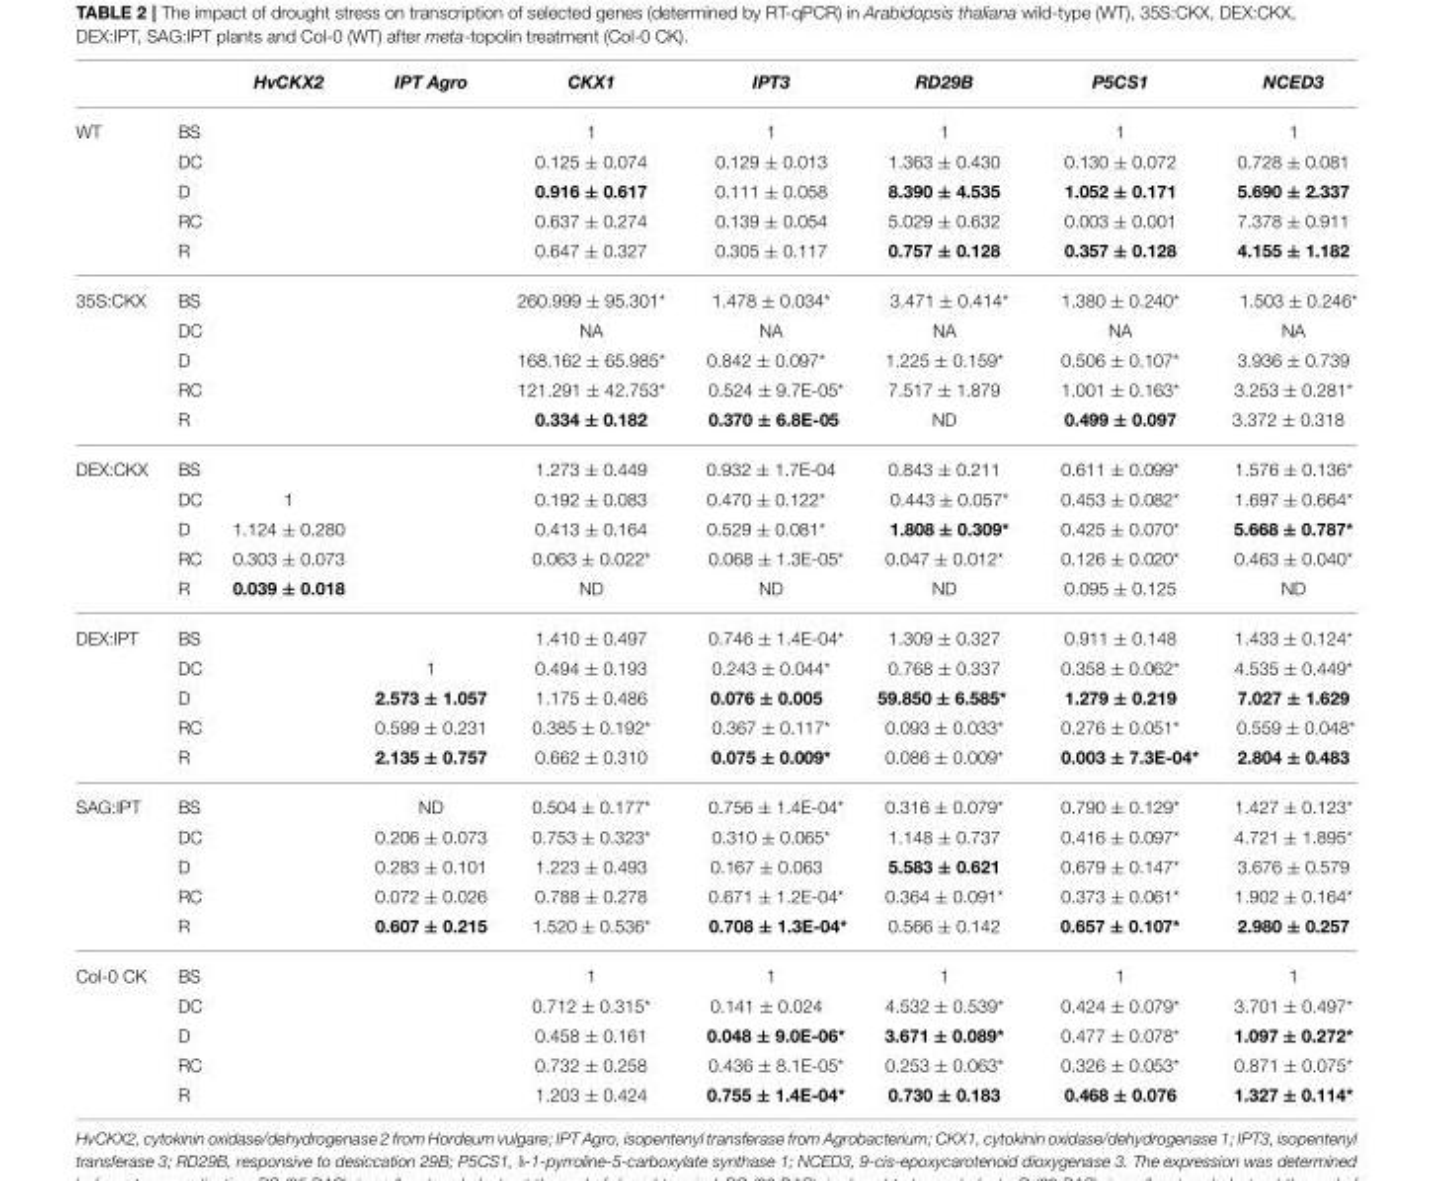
<table><thead><tr><td></td><td></td><td>HvCKX2</td><td>IPT Agro</td><td>CKX1</td><td>IPT3</td><td>RD29B</td><td>P5CS1</td><td>NCED3</td></tr></thead><tbody><tr><td rowspan="5">WT</td><td>BS</td><td></td><td></td><td>1</td><td>1</td><td>1</td><td>1</td><td>1</td></tr><tr><td>DC</td><td></td><td></td><td>0.125 ± 0.074</td><td>0.129 ± 0.013</td><td>1.363 ± 0.430</td><td>0.130 ± 0.072</td><td>0.728 ± 0.081</td></tr><tr><td>D</td><td></td><td></td><td>0.916 ± 0.617</td><td>0.111 ± 0.058</td><td>8.390 ± 4.535</td><td>1.052 ± 0.171</td><td>5.690 ± 2.337</td></tr><tr><td>RC</td><td></td><td></td><td>0.637 ± 0.274</td><td>0.139 ± 0.054</td><td>5.029 ± 0.632</td><td>0.003 ± 0.001</td><td>7.378 ± 0.911</td></tr><tr><td>R</td><td></td><td></td><td>0.647 ± 0.327</td><td>0.305 ± 0.117</td><td>0.757 ± 0.128</td><td>0.357 ± 0.128</td><td>4.155 ± 1.182</td></tr><tr><td rowspan="5">35S:CKX</td><td>BS</td><td></td><td></td><td>260.999 ± 95.301*</td><td>1.478 ± 0.034*</td><td>3.471 ± 0.414*</td><td>1.380 ± 0.240*</td><td>1.503 ± 0.246*</td></tr><tr><td>DC</td><td></td><td></td><td>NA</td><td>NA</td><td>NA</td><td>NA</td><td>NA</td></tr><tr><td>D</td><td></td><td></td><td>168.162 ± 65.985*</td><td>0.842 ± 0.097*</td><td>1.225 ± 0.159*</td><td>0.506 ± 0.107*</td><td>3.936 ± 0.739</td></tr><tr><td>RC</td><td></td><td></td><td>121.291 ± 42.753*</td><td>0.524 ± 9.7E-05*</td><td>7.517 ± 1.879</td><td>1.001 ± 0.163*</td><td>3.253 ± 0.281*</td></tr><tr><td>R</td><td></td><td></td><td>0.334 ± 0.182</td><td>0.370 ± 6.8E-05</td><td>ND</td><td>0.499 ± 0.097</td><td>3.372 ± 0.318</td></tr><tr><td rowspan="5">DEX:CKX</td><td>BS</td><td></td><td></td><td>1.273 ± 0.449</td><td>0.932 ± 1.7E-04</td><td>0.843 ± 0.211</td><td>0.611 ± 0.099*</td><td>1.576 ± 0.136*</td></tr><tr><td>DC</td><td>1</td><td></td><td>0.192 ± 0.083</td><td>0.470 ± 0.122*</td><td>0.443 ± 0.057*</td><td>0.453 ± 0.082*</td><td>1.697 ± 0.664*</td></tr><tr><td>D</td><td>1.124 ± 0.280</td><td></td><td>0.413 ± 0.164</td><td>0.529 ± 0.081*</td><td>1.808 ± 0.309*</td><td>0.425 ± 0.070*</td><td>5.668 ± 0.787*</td></tr><tr><td>RC</td><td>0.303 ± 0.073</td><td></td><td>0.063 ± 0.022*</td><td>0.068 ± 1.3E-05*</td><td>0.047 ± 0.012*</td><td>0.126 ± 0.020*</td><td>0.463 ± 0.040*</td></tr><tr><td>R</td><td>0.039 ± 0.018</td><td></td><td>ND</td><td>ND</td><td>ND</td><td>0.095 ± 0.125</td><td>ND</td></tr><tr><td rowspan="5">DEX:IPT</td><td>BS</td><td></td><td></td><td>1.410 ± 0.497</td><td>0.746 ± 1.4E-04*</td><td>1.309 ± 0.327</td><td>0.911 ± 0.148</td><td>1.433 ± 0.124*</td></tr><tr><td>DC</td><td></td><td>1</td><td>0.494 ± 0.193</td><td>0.243 ± 0.044*</td><td>0.768 ± 0.337</td><td>0.358 ± 0.062*</td><td>4.535 ± 0.449*</td></tr><tr><td>D</td><td></td><td>2.573 ± 1.057</td><td>1.175 ± 0.486</td><td>0.076 ± 0.005</td><td>59.850 ± 6.585*</td><td>1.279 ± 0.219</td><td>7.027 ± 1.629</td></tr><tr><td>RC</td><td></td><td>0.599 ± 0.231</td><td>0.385 ± 0.192*</td><td>0.367 ± 0.117*</td><td>0.093 ± 0.033*</td><td>0.276 ± 0.051*</td><td>0.559 ± 0.048*</td></tr><tr><td>R</td><td></td><td>2.135 ± 0.757</td><td>0.662 ± 0.310</td><td>0.075 ± 0.009*</td><td>0.086 ± 0.009*</td><td>0.003 ± 7.3E-04*</td><td>2.804 ± 0.483</td></tr><tr><td rowspan="5">SAG:IPT</td><td>BS</td><td></td><td>ND</td><td>0.504 ± 0.177*</td><td>0.756 ± 1.4E-04*</td><td>0.316 ± 0.079*</td><td>0.790 ± 0.129*</td><td>1.427 ± 0.123*</td></tr><tr><td>DC</td><td></td><td>0.206 ± 0.073</td><td>0.753 ± 0.323*</td><td>0.310 ± 0.065*</td><td>1.148 ± 0.737</td><td>0.416 ± 0.097*</td><td>4.721 ± 1.895*</td></tr><tr><td>D</td><td></td><td>0.283 ± 0.101</td><td>1.223 ± 0.493</td><td>0.167 ± 0.063</td><td>5.583 ± 0.621</td><td>0.679 ± 0.147*</td><td>3.676 ± 0.579</td></tr><tr><td>RC</td><td></td><td>0.072 ± 0.026</td><td>0.788 ± 0.278</td><td>0.671 ± 1.2E-04*</td><td>0.364 ± 0.091*</td><td>0.373 ± 0.061*</td><td>1.902 ± 0.164*</td></tr><tr><td>R</td><td></td><td>0.607 ± 0.215</td><td>1.520 ± 0.536*</td><td>0.708 ± 1.3E-04*</td><td>0.566 ± 0.142</td><td>0.657 ± 0.107*</td><td>2.980 ± 0.257</td></tr><tr><td rowspan="5">Col-0 CK</td><td>BS</td><td></td><td></td><td>1</td><td>1</td><td>1</td><td>1</td><td>1</td></tr><tr><td>DC</td><td></td><td></td><td>0.712 ± 0.315*</td><td>0.141 ± 0.024</td><td>4.532 ± 0.539*</td><td>0.424 ± 0.079*</td><td>3.701 ± 0.497*</td></tr><tr><td>D</td><td></td><td></td><td>0.458 ± 0.161</td><td>0.048 ± 9.0E-06*</td><td>3.671 ± 0.089*</td><td>0.477 ± 0.078*</td><td>1.097 ± 0.272*</td></tr><tr><td>RC</td><td></td><td></td><td>0.732 ± 0.258</td><td>0.436 ± 8.1E-05*</td><td>0.253 ± 0.063*</td><td>0.326 ± 0.053*</td><td>0.871 ± 0.075*</td></tr><tr><td>R</td><td></td><td></td><td>1.203 ± 0.424</td><td>0.755 ± 1.4E-04*</td><td>0.730 ± 0.183</td><td>0.468 ± 0.076</td><td>1.327 ± 0.114*</td></tr></tbody></table>